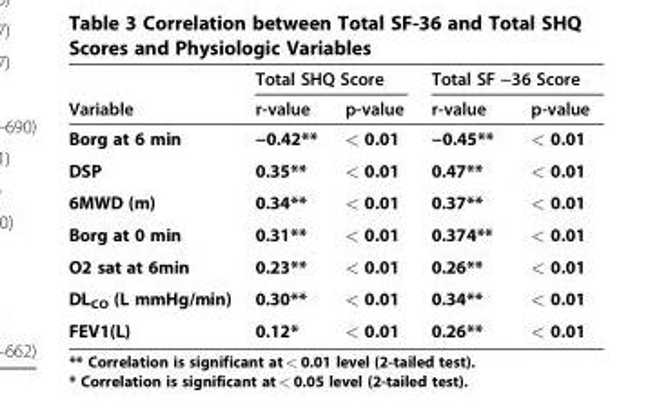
<table><thead><tr><td rowspan="2">Variable</td><td colspan="2">Total SHQ Score</td><td colspan="2">Total SF −36 Score</td></tr><tr><td>r-value</td><td>p-value</td><td>r-value</td><td>p-value</td></tr></thead><tbody><tr><td>Borg at 6 min</td><td>−0.42**</td><td>&lt; 0.01</td><td>−0.45**</td><td>&lt; 0.01</td></tr><tr><td>DSP</td><td>0.35**</td><td>&lt; 0.01</td><td>0.47**</td><td>&lt; 0.01</td></tr><tr><td>6MWD (m)</td><td>0.34**</td><td>&lt; 0.01</td><td>0.37**</td><td>&lt; 0.01</td></tr><tr><td>Borg at 0 min</td><td>0.31**</td><td>&lt; 0.01</td><td>0.374**</td><td>&lt; 0.01</td></tr><tr><td>O2 sat at 6min</td><td>0.23**</td><td>&lt; 0.01</td><td>0.26**</td><td>&lt; 0.01</td></tr><tr><td>DL<sub>CO</sub> (L mmHg/min)</td><td>0.30**</td><td>&lt; 0.01</td><td>0.34**</td><td>&lt; 0.01</td></tr><tr><td>FEV1(L)</td><td>0.12*</td><td>&lt; 0.01</td><td>0.26**</td><td>&lt; 0.01</td></tr></tbody></table>